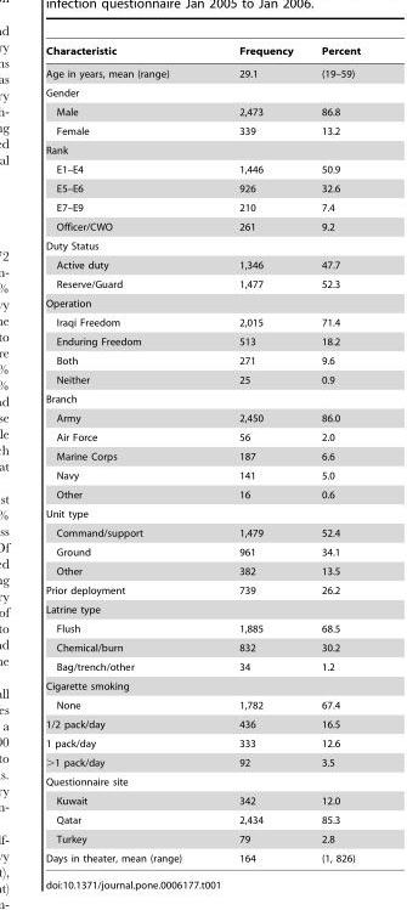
<table><thead><tr><td>Characteristic</td><td>Frequency</td><td>Percent</td></tr></thead><tbody><tr><td>Age in years, mean (range)</td><td>29.1</td><td>(19–59)</td></tr><tr><td colspan="3">Gender</td></tr><tr><td>Male</td><td>2,473</td><td>86.8</td></tr><tr><td>Female</td><td>339</td><td>13.2</td></tr><tr><td colspan="3">Rank</td></tr><tr><td>E1–E4</td><td>1,446</td><td>50.9</td></tr><tr><td>E5–E6</td><td>926</td><td>32.6</td></tr><tr><td>E7–E9</td><td>210</td><td>7.4</td></tr><tr><td>Officer/CWO</td><td>261</td><td>9.2</td></tr><tr><td colspan="3">Duty Status</td></tr><tr><td>Active duty</td><td>1,346</td><td>47.7</td></tr><tr><td>Reserve/Guard</td><td>1,477</td><td>52.3</td></tr><tr><td colspan="3">Operation</td></tr><tr><td>Iraqi Freedom</td><td>2,015</td><td>71.4</td></tr><tr><td>Enduring Freedom</td><td>513</td><td>18.2</td></tr><tr><td>Both</td><td>271</td><td>9.6</td></tr><tr><td>Neither</td><td>25</td><td>0.9</td></tr><tr><td colspan="3">Branch</td></tr><tr><td>Army</td><td>2,450</td><td>86.0</td></tr><tr><td>Air Force</td><td>56</td><td>2.0</td></tr><tr><td>Marine Corps</td><td>187</td><td>6.6</td></tr><tr><td>Navy</td><td>141</td><td>5.0</td></tr><tr><td>Other</td><td>16</td><td>0.6</td></tr><tr><td colspan="3">Unit type</td></tr><tr><td>Command/support</td><td>1,479</td><td>52.4</td></tr><tr><td>Ground</td><td>961</td><td>34.1</td></tr><tr><td>Other</td><td>382</td><td>13.5</td></tr><tr><td>Prior deployment</td><td>739</td><td>26.2</td></tr><tr><td colspan="3">Latrine type</td></tr><tr><td>Flush</td><td>1,885</td><td>68.5</td></tr><tr><td>Chemical/burn</td><td>832</td><td>30.2</td></tr><tr><td>Bag/trench/other</td><td>34</td><td>1.2</td></tr><tr><td colspan="3">Cigarette smoking</td></tr><tr><td>None</td><td>1,782</td><td>67.4</td></tr><tr><td>1/2 pack/day</td><td>436</td><td>16.5</td></tr><tr><td>1 pack/day</td><td>333</td><td>12.6</td></tr><tr><td>&gt;1 pack/day</td><td>92</td><td>3.5</td></tr><tr><td colspan="3">Questionnaire site</td></tr><tr><td>Kuwait</td><td>342</td><td>12.0</td></tr><tr><td>Qatar</td><td>2,434</td><td>85.3</td></tr><tr><td>Turkey</td><td>79</td><td>2.8</td></tr><tr><td>Days in theater, mean (range)</td><td>164</td><td>(1, 826)</td></tr></tbody></table>